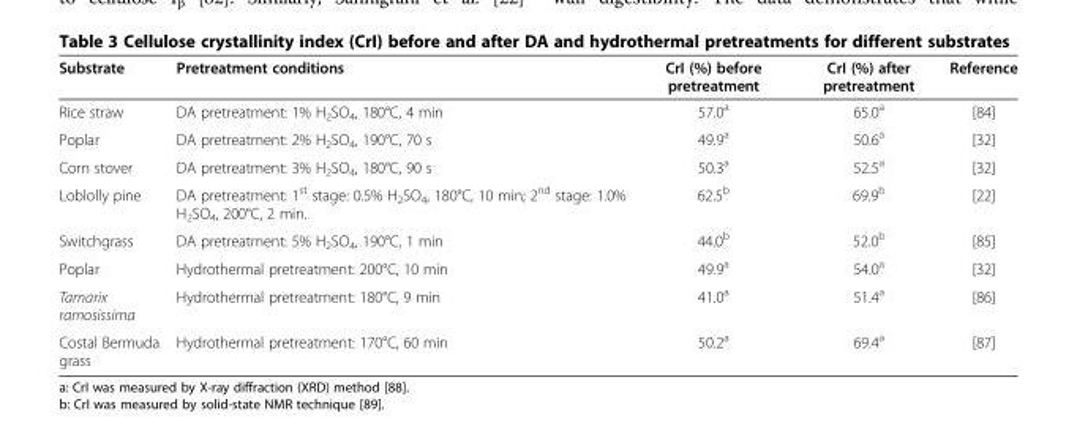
<table><thead><tr><td>Substrate</td><td>Pretreatment conditions</td><td>CrI (%) before pretreatment</td><td>CrI (%) after pretreatment</td><td>Reference</td></tr></thead><tbody><tr><td>Rice straw</td><td>DA pretreatment: 1% H<sub>2</sub>SO<sub>4</sub>, 180°C, 4 min</td><td>57.0<sup>a</sup></td><td>65.0<sup>a</sup></td><td>[84]</td></tr><tr><td>Poplar</td><td>DA pretreatment: 2% H<sub>2</sub>SO<sub>4</sub>, 190°C, 70 s</td><td>49.9<sup>a</sup></td><td>50.6<sup>a</sup></td><td>[32]</td></tr><tr><td>Corn stover</td><td>DA pretreatment: 3% H<sub>2</sub>SO<sub>4</sub>, 180°C, 90 s</td><td>50.3<sup>a</sup></td><td>52.5<sup>a</sup></td><td>[32]</td></tr><tr><td>Loblolly pine</td><td>DA pretreatment: 1<sup>st</sup> stage: 0.5% H<sub>2</sub>SO<sub>4</sub>, 180°C, 10 min; 2<sup>nd</sup> stage: 1.0% H<sub>2</sub>SO<sub>4</sub>, 200°C, 2 min.</td><td>62.5<sup>b</sup></td><td>69.9<sup>b</sup></td><td>[22]</td></tr><tr><td>Switchgrass</td><td>DA pretreatment: 5% H<sub>2</sub>SO<sub>4</sub>, 190°C, 1 min</td><td>44.0<sup>b</sup></td><td>52.0<sup>b</sup></td><td>[85]</td></tr><tr><td>Poplar</td><td>Hydrothermal pretreatment: 200°C, 10 min</td><td>49.9<sup>a</sup></td><td>54.0<sup>a</sup></td><td>[32]</td></tr><tr><td>Tamarix ramosissima</td><td>Hydrothermal pretreatment: 180°C, 9 min</td><td>41.0<sup>a</sup></td><td>51.4<sup>a</sup></td><td>[86]</td></tr><tr><td>Costal Bermuda grass</td><td>Hydrothermal pretreatment: 170°C, 60 min</td><td>50.2<sup>a</sup></td><td>69.4<sup>a</sup></td><td>[87]</td></tr></tbody></table>